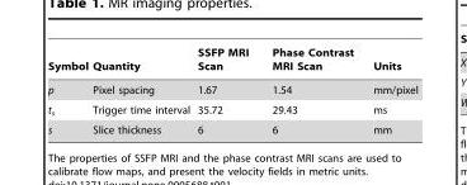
<table><thead><tr><td>Symbol</td><td>Quantity</td><td>SSFP MRI Scan</td><td>Phase Contrast MRI Scan</td><td>Units</td></tr></thead><tbody><tr><td>p</td><td>Pixel spacing</td><td>1.67</td><td>1.54</td><td>mm/pixel</td></tr><tr><td>t<sub>s</sub></td><td>Trigger time interval</td><td>35.72</td><td>29.43</td><td>ms</td></tr><tr><td>s</td><td>Slice thickness</td><td>6</td><td>6</td><td>mm</td></tr></tbody></table>